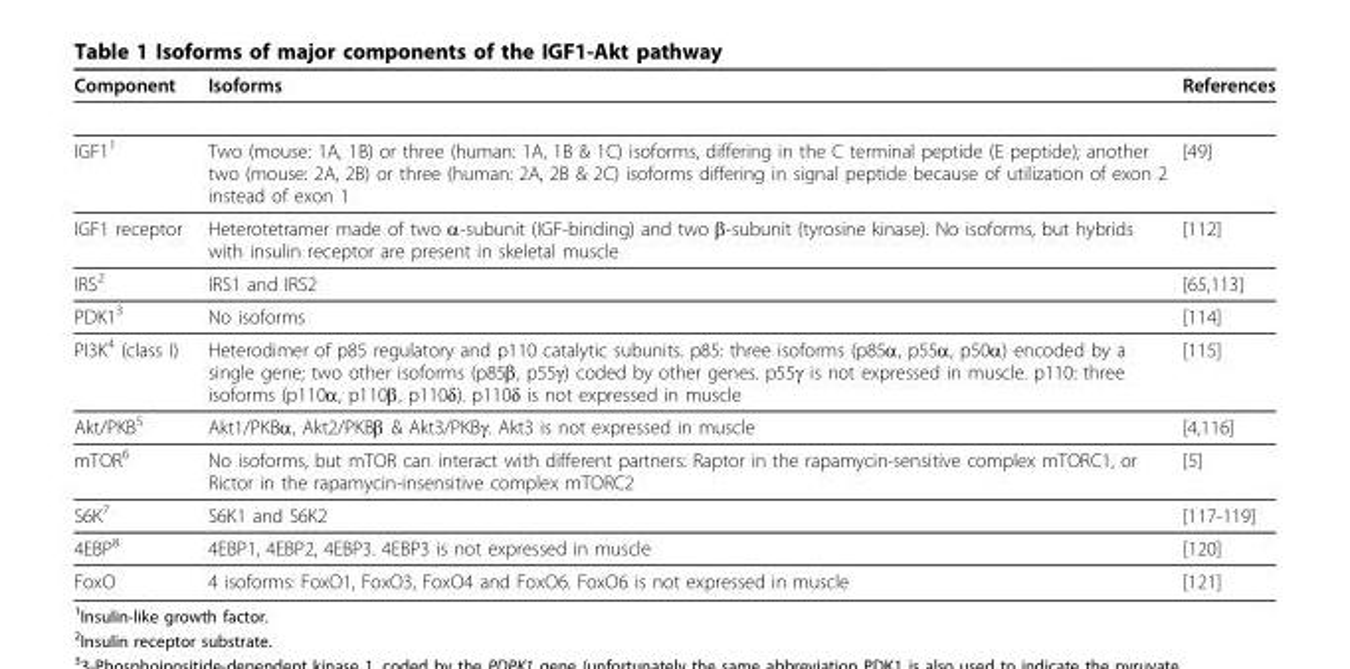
<table><thead><tr><td>Component</td><td>Isoforms</td><td>References</td></tr></thead><tbody><tr><td>IGF1<sup>1</sup></td><td>Two (mouse: 1A, 1B) or three (human: 1A, 1B &amp; 1C) isoforms, differing in the C terminal peptide (E peptide); another two (mouse: 2A, 2B) or three (human: 2A, 2B &amp; 2C) isoforms differing in signal peptide because of utilization of exon 2 instead of exon 1</td><td>[49]</td></tr><tr><td>IGF1 receptor</td><td>Heterotetramer made of two α-subunit (IGF-binding) and two β-subunit (tyrosine kinase). No isoforms, but hybrids with insulin receptor are present in skeletal muscle</td><td>[112]</td></tr><tr><td>IRS<sup>2</sup></td><td>IRS1 and IRS2</td><td>[65,113]</td></tr><tr><td>PDK1<sup>3</sup></td><td>No isoforms</td><td>[114]</td></tr><tr><td>PI3K<sup>4</sup> (class I)</td><td>Heterodimer of p85 regulatory and p110 catalytic subunits. p85: three isoforms (p85α, p55α, p50α) encoded by a single gene; two other isoforms (p85β, p55γ) coded by other genes. p55γ is not expressed in muscle. p110: three isoforms (p110α, p110β, p110δ). p110δ is not expressed in muscle</td><td>[115]</td></tr><tr><td>Akt/PKB<sup>5</sup></td><td>Akt1/PKBα, Akt2/PKBβ &amp; Akt3/PKBγ. Akt3 is not expressed in muscle</td><td>[4,116]</td></tr><tr><td>mTOR<sup>6</sup></td><td>No isoforms, but mTOR can interact with different partners: Raptor in the rapamycin-sensitive complex mTORC1, or Rictor in the rapamycin-insensitive complex mTORC2</td><td>[5]</td></tr><tr><td>S6K<sup>7</sup></td><td>S6K1 and S6K2</td><td>[117-119]</td></tr><tr><td>4EBP<sup>8</sup></td><td>4EBP1, 4EBP2, 4EBP3. 4EBP3 is not expressed in muscle</td><td>[120]</td></tr><tr><td>FoxO</td><td>4 isoforms: FoxO1, FoxO3, FoxO4 and FoxO6. FoxO6 is not expressed in muscle</td><td>[121]</td></tr></tbody></table>